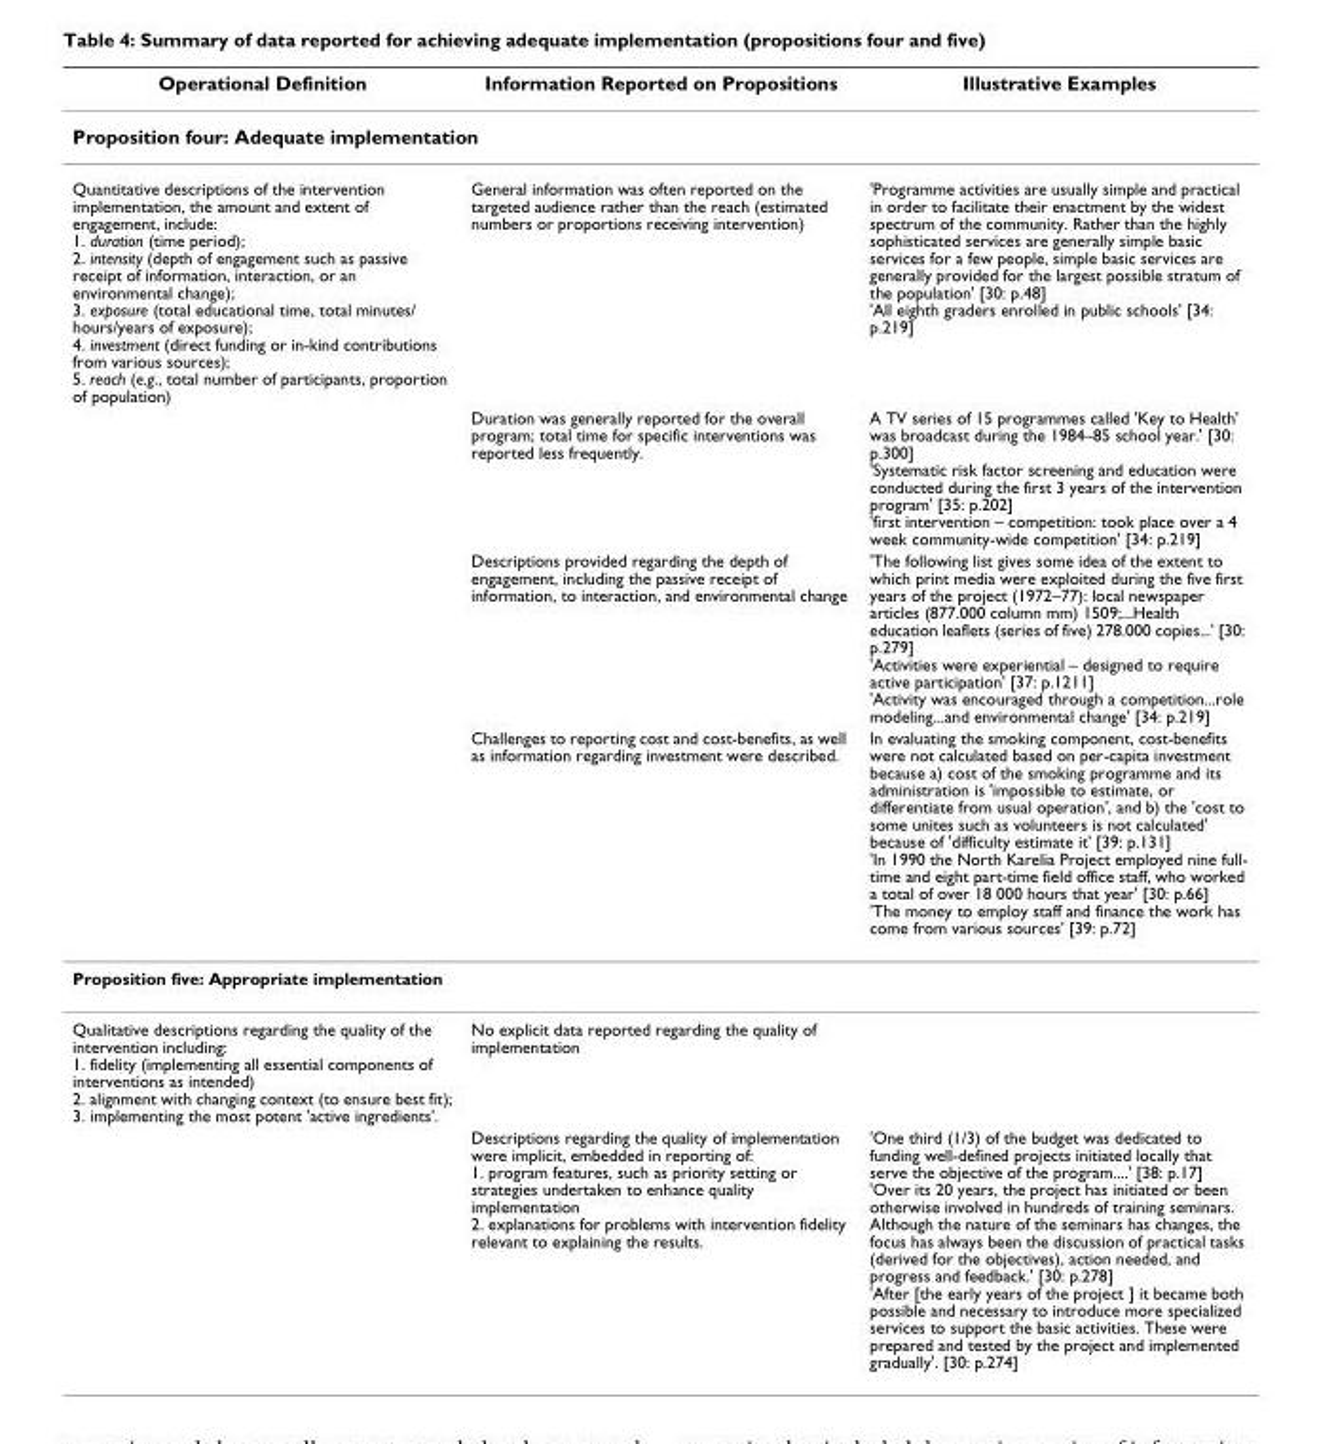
<table><thead><tr><td>Operational Definition</td><td>Information Reported on Propositions</td><td>Illustrative Examples</td></tr></thead><tbody><tr><td colspan="3">Proposition four: Adequate implementation</td></tr><tr><td rowspan="4">Quantitative descriptions of the intervention implementation, the amount and extent of engagement, include: 1. duration (time period); 2. intensity (depth of engagement such as passive receipt of information, interaction, or an environmental change); 3. exposure (total educational time, total minutes/ hours/years of exposure); 4. investment (direct funding or in-kind contributions from various sources); 5. reach (e.g., total number of participants, proportion of population)</td><td>General information was often reported on the targeted audience rather than the reach (estimated numbers or proportions receiving intervention)</td><td>&#x27;Programme activities are usually simple and practical in order to facilitate their enactment by the widest spectrum of the community. Rather than the highly sophisticated services are generally simple basic services for a few people, simple basic services are generally provided for the largest possible stratum of the population&#x27; [30: p.48] &#x27;All eighth graders enrolled in public schools&#x27; [34: p.219]</td></tr><tr><td>Duration was generally reported for the overall program; total time for specific interventions was reported less frequently.</td><td>A TV series of 15 programmes called &#x27;Key to Health&#x27; was broadcast during the 1984–85 school year.&#x27; [30: p.300] &#x27;Systematic risk factor screening and education were conducted during the first 3 years of the intervention program&#x27; [35: p.202] &#x27;first intervention – competition: took place over a 4 week community-wide competition&#x27; [34: p.219]</td></tr><tr><td>Descriptions provided regarding the depth of engagement, including the passive receipt of information, to interaction, and environmental change</td><td>&#x27;The following list gives some idea of the extent to which print media were exploited during the five first years of the project (1972–77): local newspaper articles (877.000 column mm) 1509;...Health education leaflets (series of five) 278.000 copies...&#x27; [30: p.279] &#x27;Activities were experiential – designed to require active participation&#x27; [37: p.1211] &#x27;Activity was encouraged through a competition...role modeling...and environmental change&#x27; [34: p.219]</td></tr><tr><td>Challenges to reporting cost and cost-benefits, as well as information regarding investment were described.</td><td>In evaluating the smoking component, cost-benefits were not calculated based on per-capita investment because a) cost of the smoking programme and its administration is &#x27;impossible to estimate, or differentiate from usual operation&#x27;, and b) the &#x27;cost to some unites such as volunteers is not calculated&#x27; because of &#x27;difficulty estimate it&#x27; [39: p.131] &#x27;In 1990 the North Karelia Project employed nine full- time and eight part-time field office staff, who worked a total of over 18 000 hours that year&#x27; [30: p.66] &#x27;The money to employ staff and finance the work has come from various sources&#x27; [39: p.72]</td></tr><tr><td colspan="3">Proposition five: Appropriate implementation</td></tr><tr><td rowspan="2">Qualitative descriptions regarding the quality of the intervention including: 1. fidelity (implementing all essential components of interventions as intended) 2. alignment with changing context (to ensure best fit); 3. implementing the most potent &#x27;active ingredients&#x27;.</td><td>No explicit data reported regarding the quality of implementation</td><td></td></tr><tr><td>Descriptions regarding the quality of implementation were implicit, embedded in reporting of: 1. program features, such as priority setting or strategies undertaken to enhance quality implementation 2. explanations for problems with intervention fidelity relevant to explaining the results.</td><td>&#x27;One third (1/3) of the budget was dedicated to funding well-defined projects initiated locally that serve the objective of the program....&#x27; [38: p.17] &#x27;Over its 20 years, the project has initiated or been otherwise involved in hundreds of training seminars. Although the nature of the seminars has changes, the focus has always been the discussion of practical tasks (derived for the objectives), action needed, and progress and feedback.&#x27; [30: p.278] &#x27;After [the early years of the project ] it became both possible and necessary to introduce more specialized services to support the basic activities. These were prepared and tested by the project and implemented gradually&#x27;. [30: p.274]</td></tr></tbody></table>